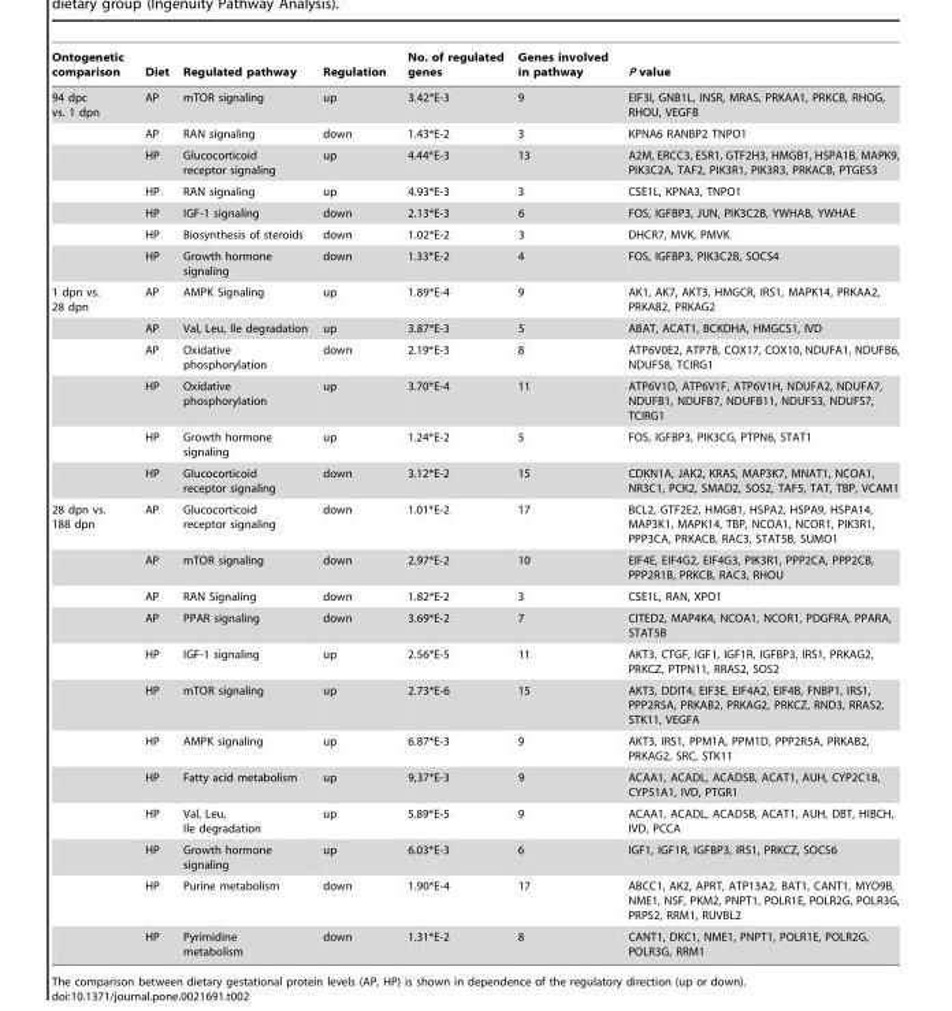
<table><thead><tr><td>Ontogenetic comparison</td><td>Diet</td><td>Regulated pathway</td><td>Regulation</td><td>No. of regulated genes</td><td>Genes involved in pathway</td><td>P value</td></tr></thead><tbody><tr><td rowspan="7">94 dpc vs. 1 dpn</td><td>AP</td><td>mTOR signaling</td><td>up</td><td>3.42*E-3</td><td>9</td><td>EIF3I, GNB1L, INSR, MRAS, PRKAA1, PRKCB, RHOG, RHOU, VEGFB</td></tr><tr><td>AP</td><td>RAN signaling</td><td>down</td><td>1.43*E-2</td><td>3</td><td>KPNA6 RANBP2 TNPO1</td></tr><tr><td>HP</td><td>Glucocorticoid receptor signaling</td><td>up</td><td>4.44*E-3</td><td>13</td><td>A2M, ERCC3, ESR1, GTF2H3, HMGB1, HSPA1B, MAPK9, PIK3C2A, TAF2, PIK3R1, PIK3R3, PRKACB, PTGES3</td></tr><tr><td>HP</td><td>RAN signaling</td><td>up</td><td>4.93*E-3</td><td>3</td><td>CSE1L, KPNA3, TNPO1</td></tr><tr><td>HP</td><td>IGF-1 signaling</td><td>down</td><td>2.13*E-3</td><td>6</td><td>FOS, IGFBP3, JUN, PIK3C2B, YWHAB, YWHAE</td></tr><tr><td>HP</td><td>Biosynthesis of steroids</td><td>down</td><td>1.02*E-2</td><td>3</td><td>DHCR7, MVK, PMVK</td></tr><tr><td>HP</td><td>Growth hormone signaling</td><td>down</td><td>1.33*E-2</td><td>4</td><td>FOS, IGFBP3, PIK3C2B, SOCS4</td></tr><tr><td rowspan="6">1 dpn vs. 28 dpn</td><td>AP</td><td>AMPK Signaling</td><td>up</td><td>1.89*E-4</td><td>9</td><td>AK1, AK7, AKT3, HMGCR, IRS1, MAPK14, PRKAA2, PRKAB2, PRKAG2</td></tr><tr><td>AP</td><td>Val, Leu, Ile degradation</td><td>up</td><td>3.87*E-3</td><td>5</td><td>ABAT, ACAT1, BCKDHA, HMGCS1, IVD</td></tr><tr><td>AP</td><td>Oxidative phosphorylation</td><td>down</td><td>2.19*E-3</td><td>8</td><td>ATP6V0E2, ATP7B, COX17, COX10, NDUFA1, NDUFB6, NDUFS8, TCIRG1</td></tr><tr><td>HP</td><td>Oxidative phosphorylation</td><td>up</td><td>3.70*E-4</td><td>11</td><td>ATP6V1D, ATP6V1F, ATP6V1H, NDUFA2, NDUFA7, NDUFB1, NDUFB7, NDUFB11, NDUFS3, NDUFS7, TCIRG1</td></tr><tr><td>HP</td><td>Growth hormone signaling</td><td>up</td><td>1.24*E-2</td><td>5</td><td>FOS, IGFBP3, PIK3CG, PTPN6, STAT1</td></tr><tr><td>HP</td><td>Glucocorticoid receptor signaling</td><td>down</td><td>3.12*E-2</td><td>15</td><td>CDKN1A, JAK2, KRAS, MAP3K7, MNAT1, NCOA1, NR3C1, PCK2, SMAD2, SOS2, TAF5, TAT, TBP, VCAM1</td></tr><tr><td rowspan="12">28 dpn vs. 188 dpn</td><td>AP</td><td>Glucocorticoid receptor signaling</td><td>down</td><td>1.01*E-2</td><td>17</td><td>BCL2, GTF2E2, HMGB1, HSPA2, HSPA9, HSPA14, MAP3K1, MAPK14, TBP, NCOA1, NCOR1, PIK3R1, PPP3CA, PRKACB, RAC3, STAT5B, SUMO1</td></tr><tr><td>AP</td><td>mTOR signaling</td><td>down</td><td>2.97*E-2</td><td>10</td><td>EIF4E, EIF4G2, EIF4G3, PIK3R1, PPP2CA, PPP2CB, PPP2R1B, PRKCB, RAC3, RHOU</td></tr><tr><td>AP</td><td>RAN Signaling</td><td>down</td><td>1.82*E-2</td><td>3</td><td>CSE1L, RAN, XPO1</td></tr><tr><td>AP</td><td>PPAR signaling</td><td>down</td><td>3.69*E-2</td><td>7</td><td>CITED2, MAP4K4, NCOA1, NCOR1, PDGFRA, PPARA, STAT5B</td></tr><tr><td>HP</td><td>IGF-1 signaling</td><td>up</td><td>2.56*E-5</td><td>11</td><td>AKT3, CTGF, IGF1, IGF1R, IGFBP3, IRS1, PRKAG2, PRKCZ, PTPN11, RRAS2, SOS2</td></tr><tr><td>HP</td><td>mTOR signaling</td><td>up</td><td>2.73*E-6</td><td>15</td><td>AKT3, DDIT4, EIF3E, EIF4A2, EIF4B, FNBP1, IRS1, PPP2R5A, PRKAB2, PRKAG2, PRKCZ, RND3, RRAS2, STK11, VEGFA</td></tr><tr><td>HP</td><td>AMPK signaling</td><td>up</td><td>6.87*E-3</td><td>9</td><td>AKT3, IRS1, PPM1A, PPM1D, PPP2R5A, PRKAB2, PRKAG2, SRC, STK11</td></tr><tr><td>HP</td><td>Fatty acid metabolism</td><td>up</td><td>9,37*E-3</td><td>9</td><td>ACAA1, ACADL, ACADSB, ACAT1, AUH, CYP2C18, CYP51A1, IVD, PTGR1</td></tr><tr><td>HP</td><td>Val, Leu, Ile degradation</td><td>up</td><td>5.89*E-5</td><td>9</td><td>ACAA1, ACADL, ACADSB, ACAT1, AUH, DBT, HIBCH, IVD, PCCA</td></tr><tr><td>HP</td><td>Growth hormone signaling</td><td>up</td><td>6.03*E-3</td><td>6</td><td>IGF1, IGF1R, IGFBP3, IRS1, PRKCZ, SOCS6</td></tr><tr><td>HP</td><td>Purine metabolism</td><td>down</td><td>1.90*E-4</td><td>17</td><td>ABCC1, AK2, APRT, ATP13A2, BAT1, CANT1, MYO9B, NME1, NSF, PKM2, PNPT1, POLR1E, POLR2G, POLR3G, PRPS2, RRM1, RUVBL2</td></tr><tr><td>HP</td><td>Pyrimidine metabolism</td><td>down</td><td>1.31*E-2</td><td>8</td><td>CANT1, DKC1, NME1, PNPT1, POLR1E, POLR2G, POLR3G, RRM1</td></tr></tbody></table>